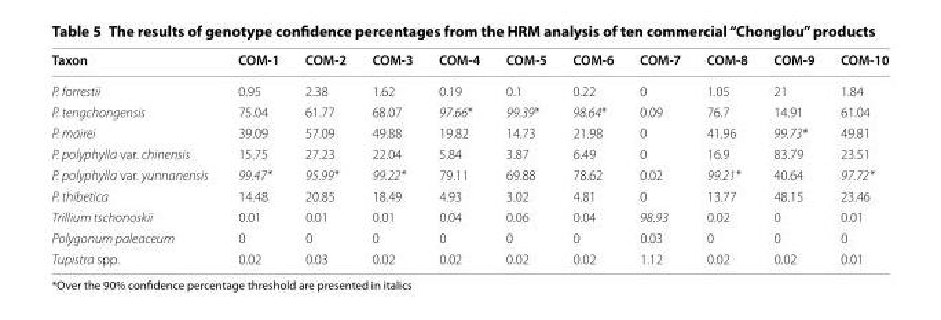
<table><thead><tr><td>Taxon</td><td>COM‑1</td><td>COM‑2</td><td>COM‑3</td><td>COM‑4</td><td>COM‑5</td><td>COM‑6</td><td>COM‑7</td><td>COM‑8</td><td>COM‑9</td><td>COM‑10</td></tr></thead><tbody><tr><td>P. forrestii</td><td>0.95</td><td>2.38</td><td>1.62</td><td>0.19</td><td>0.1</td><td>0.22</td><td>0</td><td>1.05</td><td>21</td><td>1.84</td></tr><tr><td>P. tengchongensis</td><td>75.04</td><td>61.77</td><td>68.07</td><td>97.66*</td><td>99.39*</td><td>98.64*</td><td>0.09</td><td>76.7</td><td>14.91</td><td>61.04</td></tr><tr><td>P. mairei</td><td>39.09</td><td>57.09</td><td>49.88</td><td>19.82</td><td>14.73</td><td>21.98</td><td>0</td><td>41.96</td><td>99.73*</td><td>49.81</td></tr><tr><td>P. polyphylla var. chinensis</td><td>15.75</td><td>27.23</td><td>22.04</td><td>5.84</td><td>3.87</td><td>6.49</td><td>0</td><td>16.9</td><td>83.79</td><td>23.51</td></tr><tr><td>P. polyphylla var. yunnanensis</td><td>99.47*</td><td>95.99*</td><td>99.22*</td><td>79.11</td><td>69.88</td><td>78.62</td><td>0.02</td><td>99.21*</td><td>40.64</td><td>97.72*</td></tr><tr><td>P. thibetica</td><td>14.48</td><td>20.85</td><td>18.49</td><td>4.93</td><td>3.02</td><td>4.81</td><td>0</td><td>13.77</td><td>48.15</td><td>23.46</td></tr><tr><td>Trillium tschonoskii</td><td>0.01</td><td>0.01</td><td>0.01</td><td>0.04</td><td>0.06</td><td>0.04</td><td>98.93</td><td>0.02</td><td>0</td><td>0.01</td></tr><tr><td>Polygonum paleaceum</td><td>0</td><td>0</td><td>0</td><td>0</td><td>0</td><td>0</td><td>0.03</td><td>0</td><td>0</td><td>0</td></tr><tr><td>Tupistra spp.</td><td>0.02</td><td>0.03</td><td>0.02</td><td>0.02</td><td>0.02</td><td>0.02</td><td>1.12</td><td>0.02</td><td>0.02</td><td>0.01</td></tr></tbody></table>